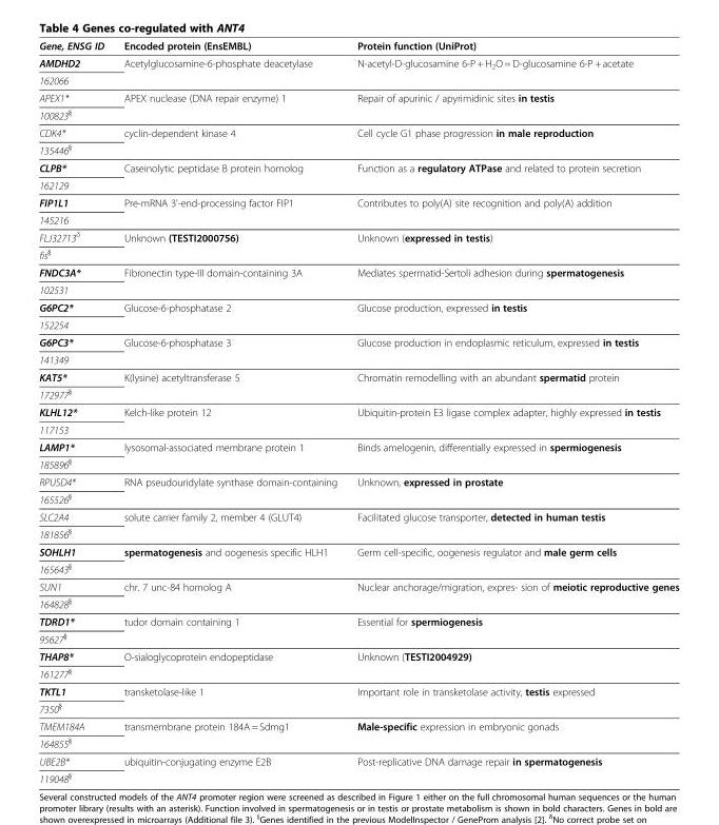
<table><thead><tr><td>Gene, ENSG ID</td><td>Encoded protein (EnsEMBL)</td><td>Protein function (UniProt)</td></tr></thead><tbody><tr><td>AMDHD2</td><td>Acetylglucosamine-6-phosphate deacetylase</td><td rowspan="2">N-acetyl-D-glucosamine 6-P + H<sub>2</sub>O = D-glucosamine 6-P + acetate</td></tr><tr><td colspan="2">162066</td></tr><tr><td>APEX1*</td><td>APEX nuclease (DNA repair enzyme) 1</td><td rowspan="2">Repair of apurinic / apyrimidinic sites in testis</td></tr><tr><td colspan="2">100823<sup>§</sup></td></tr><tr><td>CDK4*</td><td>cyclin-dependent kinase 4</td><td rowspan="2">Cell cycle G1 phase progression in male reproduction</td></tr><tr><td colspan="2">135446<sup>§</sup></td></tr><tr><td>CLPB*</td><td>Caseinolytic peptidase B protein homolog</td><td rowspan="2">Function as a regulatory ATPase and related to protein secretion</td></tr><tr><td colspan="2">162129</td></tr><tr><td>FIP1L1</td><td>Pre-mRNA 3&#x27;-end-processing factor FIP1</td><td rowspan="2">Contributes to poly(A) site recognition and poly(A) addition</td></tr><tr><td colspan="2">145216</td></tr><tr><td>FLJ32713<sup>δ</sup></td><td>Unknown (TESTI2000756)</td><td rowspan="2">Unknown (expressed in testis)</td></tr><tr><td colspan="2">fis<sup>§</sup></td></tr><tr><td>FNDC3A*</td><td>Fibronectin type-III domain-containing 3A</td><td rowspan="2">Mediates spermatid-Sertoli adhesion during spermatogenesis</td></tr><tr><td colspan="2">102531</td></tr><tr><td>G6PC2*</td><td>Glucose-6-phosphatase 2</td><td rowspan="2">Glucose production, expressed in testis</td></tr><tr><td colspan="2">152254</td></tr><tr><td>G6PC3*</td><td>Glucose-6-phosphatase 3</td><td rowspan="2">Glucose production in endoplasmic reticulum, expressed in testis</td></tr><tr><td colspan="2">141349</td></tr><tr><td>KAT5*</td><td>K(lysine) acetyltransferase 5</td><td rowspan="2">Chromatin remodelling with an abundant spermatid protein</td></tr><tr><td colspan="2">172977<sup>§</sup></td></tr><tr><td>KLHL12*</td><td>Kelch-like protein 12</td><td rowspan="2">Ubiquitin-protein E3 ligase complex adapter, highly expressed in testis</td></tr><tr><td colspan="2">117153</td></tr><tr><td>LAMP1*</td><td>lysosomal-associated membrane protein 1</td><td rowspan="2">Binds amelogenin, differentially expressed in spermiogenesis</td></tr><tr><td colspan="2">185896<sup>§</sup></td></tr><tr><td>RPUSD4*</td><td>RNA pseudouridylate synthase domain-containing</td><td rowspan="2">Unknown, expressed in prostate</td></tr><tr><td colspan="2">165526<sup>§</sup></td></tr><tr><td>SLC2A4</td><td>solute carrier family 2, member 4 (GLUT4)</td><td rowspan="2">Facilitated glucose transporter, detected in human testis</td></tr><tr><td colspan="2">181856<sup>§</sup></td></tr><tr><td>SOHLH1</td><td>spermatogenesis and oogenesis specific HLH1</td><td rowspan="2">Germ cell-specific, oogenesis regulator and male germ cells</td></tr><tr><td colspan="2">165643<sup>§</sup></td></tr><tr><td>SUN1</td><td>chr. 7 unc-84 homolog A</td><td rowspan="2">Nuclear anchorage/migration, expres- sion of meiotic reproductive genes</td></tr><tr><td colspan="2">164828<sup>§</sup></td></tr><tr><td>TDRD1*</td><td>tudor domain containing 1</td><td rowspan="2">Essential for spermiogenesis</td></tr><tr><td colspan="2">95627<sup>§</sup></td></tr><tr><td>THAP8*</td><td>O-sialoglycoprotein endopeptidase</td><td rowspan="2">Unknown (TESTI2004929)</td></tr><tr><td colspan="2">161277<sup>§</sup></td></tr><tr><td>TKTL1</td><td>transketolase-like 1</td><td rowspan="2">Important role in transketolase activity, testis expressed</td></tr><tr><td colspan="2">7350<sup>§</sup></td></tr><tr><td>TMEM184A</td><td>transmembrane protein 184A = Sdmg1</td><td rowspan="2">Male-specific expression in embryonic gonads</td></tr><tr><td colspan="2">164855<sup>§</sup></td></tr><tr><td>UBE2B*</td><td>ubiquitin-conjugating enzyme E2B</td><td rowspan="2">Post-replicative DNA damage repair in spermatogenesis</td></tr><tr><td>119048<sup>§</sup></td><td></td></tr></tbody></table>